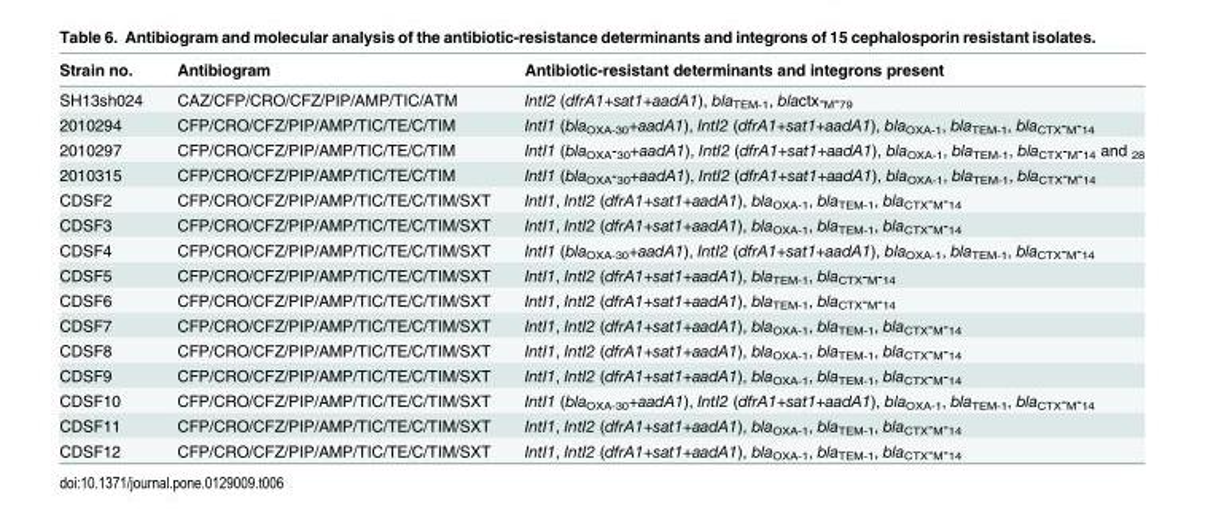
<table><thead><tr><td>Strain no.</td><td>Antibiogram</td><td>Antibiotic-resistant determinants and integrons present</td></tr></thead><tbody><tr><td>SH13sh024</td><td>CAZ/CFP/CRO/CFZ/PIP/AMP/TIC/ATM</td><td>IntI2 (dfrA1+sat1+aadA1), bla<sub>TEM-1</sub>, blactx-<sub>M</sub>-<sub>79</sub></td></tr><tr><td>2010294</td><td>CFP/CRO/CFZ/PIP/AMP/TIC/TE/C/TIM</td><td>IntI1 (bla<sub>OXA-30</sub>+aadA1), IntI2 (dfrA1+sat1+aadA1), bla<sub>OXA-1</sub>, bla<sub>TEM-1</sub>, bla<sub>CTX</sub>-<sub>M</sub>-<sub>14</sub></td></tr><tr><td>2010297</td><td>CFP/CRO/CFZ/PIP/AMP/TIC/TE/C/TIM</td><td>IntI1 (bla<sub>OXA</sub>-<sub>30</sub>+aadA1), IntI2 (dfrA1+sat1+aadA1), bla<sub>OXA-1</sub>, bla<sub>TEM-1</sub>, bla<sub>CTX</sub>-<sub>M</sub>-<sub>14</sub> and <sub>28</sub></td></tr><tr><td>2010315</td><td>CFP/CRO/CFZ/PIP/AMP/TIC/TE/C/TIM</td><td>IntI1 (bla<sub>OXA</sub>-<sub>30</sub>+aadA1), IntI2 (dfrA1+sat1+aadA1), bla<sub>OXA-1</sub>, bla<sub>TEM-1</sub>, bla<sub>CTX</sub>-<sub>M</sub>-<sub>14</sub></td></tr><tr><td>CDSF2</td><td>CFP/CRO/CFZ/PIP/AMP/TIC/TE/C/TIM/SXT</td><td>IntI1, IntI2 (dfrA1+sat1+aadA1), bla<sub>OXA-1</sub>, bla<sub>TEM-1</sub>, bla<sub>CTX</sub>-<sub>M</sub>-<sub>14</sub></td></tr><tr><td>CDSF3</td><td>CFP/CRO/CFZ/PIP/AMP/TIC/TE/C/TIM/SXT</td><td>IntI1, IntI2 (dfrA1+sat1+aadA1), bla<sub>OXA-1</sub>, bla<sub>TEM-1</sub>, bla<sub>CTX</sub>-<sub>M</sub>-<sub>14</sub></td></tr><tr><td>CDSF4</td><td>CFP/CRO/CFZ/PIP/AMP/TIC/TE/C/TIM/SXT</td><td>IntI1 (bla<sub>OXA-30</sub>+aadA1), IntI2 (dfrA1+sat1+aadA1), bla<sub>OXA-1</sub>, bla<sub>TEM-1</sub>, bla<sub>CTX</sub>-<sub>M</sub>-<sub>14</sub></td></tr><tr><td>CDSF5</td><td>CFP/CRO/CFZ/PIP/AMP/TIC/TE/C/TIM/SXT</td><td>IntI1, IntI2 (dfrA1+sat1+aadA1), bla<sub>TEM-1</sub>, bla<sub>CTX</sub>-<sub>M</sub>-<sub>14</sub></td></tr><tr><td>CDSF6</td><td>CFP/CRO/CFZ/PIP/AMP/TIC/TE/C/TIM/SXT</td><td>IntI1, IntI2 (dfrA1+sat1+aadA1), bla<sub>TEM-1</sub>, bla<sub>CTX</sub>-<sub>M</sub>-<sub>14</sub></td></tr><tr><td>CDSF7</td><td>CFP/CRO/CFZ/PIP/AMP/TIC/TE/C/TIM/SXT</td><td>IntI1, IntI2 (dfrA1+sat1+aadA1), bla<sub>OXA-1</sub>, bla<sub>TEM-1</sub>, bla<sub>CTX</sub>-<sub>M</sub>-<sub>14</sub></td></tr><tr><td>CDSF8</td><td>CFP/CRO/CFZ/PIP/AMP/TIC/TE/C/TIM/SXT</td><td>IntI1, IntI2 (dfrA1+sat1+aadA1), bla<sub>OXA-1</sub>, bla<sub>TEM-1</sub>, bla<sub>CTX</sub>-<sub>M</sub>-<sub>14</sub></td></tr><tr><td>CDSF9</td><td>CFP/CRO/CFZ/PIP/AMP/TIC/TE/C/TIM/SXT</td><td>IntI1, IntI2 (dfrA1+sat1+aadA1), bla<sub>OXA-1</sub>, bla<sub>TEM-1</sub>, bla<sub>CTX</sub>-<sub>M</sub>-<sub>14</sub></td></tr><tr><td>CDSF10</td><td>CFP/CRO/CFZ/PIP/AMP/TIC/TE/C/TIM/SXT</td><td>IntI1 (bla<sub>OXA-30</sub>+aadA1), IntI2 (dfrA1+sat1+aadA1), bla<sub>OXA-1</sub>, bla<sub>TEM-1</sub>, bla<sub>CTX</sub>-<sub>M</sub>-<sub>14</sub></td></tr><tr><td>CDSF11</td><td>CFP/CRO/CFZ/PIP/AMP/TIC/TE/C/TIM/SXT</td><td>IntI1, IntI2 (dfrA1+sat1+aadA1), bla<sub>OXA-1</sub>, bla<sub>TEM-1</sub>, bla<sub>CTX</sub>-<sub>M</sub>-<sub>14</sub></td></tr><tr><td>CDSF12</td><td>CFP/CRO/CFZ/PIP/AMP/TIC/TE/C/TIM/SXT</td><td>IntI1, IntI2 (dfrA1+sat1+aadA1), bla<sub>OXA-1</sub>, bla<sub>TEM-1</sub>, bla<sub>CTX</sub>-<sub>M</sub>-<sub>14</sub></td></tr></tbody></table>